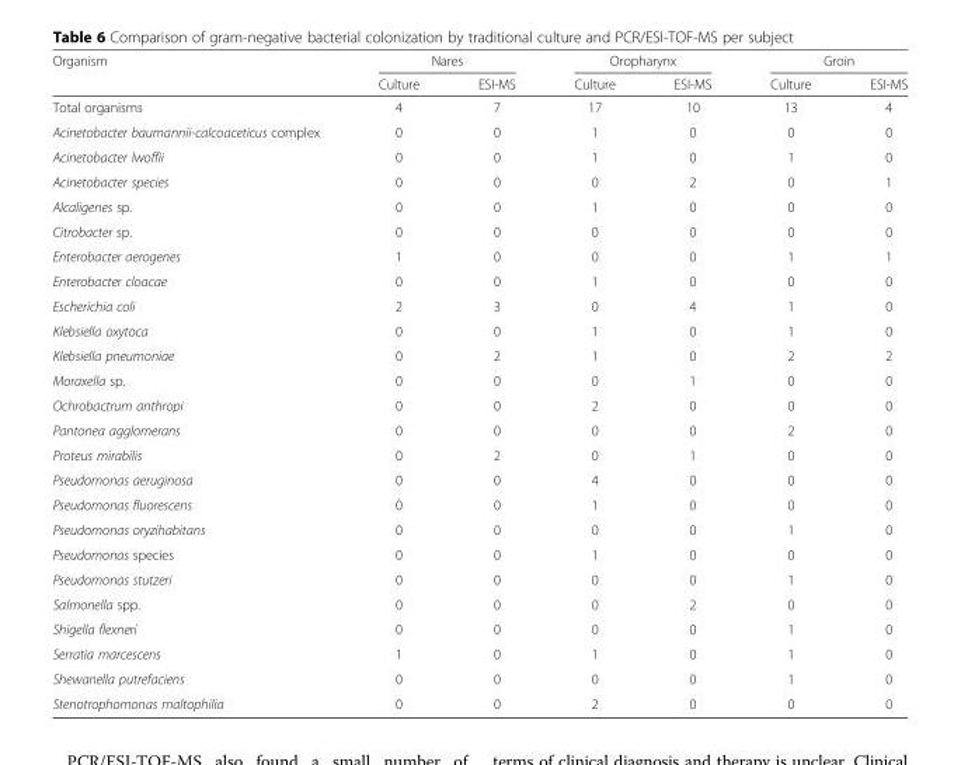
<table><thead><tr><td rowspan="2">Organism</td><td colspan="2">Nares</td><td colspan="2">Oropharynx</td><td colspan="2">Groin</td></tr><tr><td>Culture</td><td>ESI-MS</td><td>Culture</td><td>ESI-MS</td><td>Culture</td><td>ESI-MS</td></tr></thead><tbody><tr><td>Total organisms</td><td>4</td><td>7</td><td>17</td><td>10</td><td>13</td><td>4</td></tr><tr><td>Acinetobacter baumannii-calcoaceticus complex</td><td>0</td><td>0</td><td>1</td><td>0</td><td>0</td><td>0</td></tr><tr><td>Acinetobacter lwoffii</td><td>0</td><td>0</td><td>1</td><td>0</td><td>1</td><td>0</td></tr><tr><td>Acinetobacter species</td><td>0</td><td>0</td><td>0</td><td>2</td><td>0</td><td>1</td></tr><tr><td>Alcaligenes sp.</td><td>0</td><td>0</td><td>1</td><td>0</td><td>0</td><td>0</td></tr><tr><td>Citrobacter sp.</td><td>0</td><td>0</td><td>0</td><td>0</td><td>0</td><td>0</td></tr><tr><td>Enterobacter aerogenes</td><td>1</td><td>0</td><td>0</td><td>0</td><td>1</td><td>1</td></tr><tr><td>Enterobacter cloacae</td><td>0</td><td>0</td><td>1</td><td>0</td><td>0</td><td>0</td></tr><tr><td>Escherichia coli</td><td>2</td><td>3</td><td>0</td><td>4</td><td>1</td><td>0</td></tr><tr><td>Klebsiella oxytoca</td><td>0</td><td>0</td><td>1</td><td>0</td><td>1</td><td>0</td></tr><tr><td>Klebsiella pneumoniae</td><td>0</td><td>2</td><td>1</td><td>0</td><td>2</td><td>2</td></tr><tr><td>Moraxella sp.</td><td>0</td><td>0</td><td>0</td><td>1</td><td>0</td><td>0</td></tr><tr><td>Ochrobactrum anthropi</td><td>0</td><td>0</td><td>2</td><td>0</td><td>0</td><td>0</td></tr><tr><td>Pantonea agglomerans</td><td>0</td><td>0</td><td>0</td><td>0</td><td>2</td><td>0</td></tr><tr><td>Proteus mirabilis</td><td>0</td><td>2</td><td>0</td><td>1</td><td>0</td><td>0</td></tr><tr><td>Pseudomonas aeruginosa</td><td>0</td><td>0</td><td>4</td><td>0</td><td>0</td><td>0</td></tr><tr><td>Pseudomonas fluorescens</td><td>0</td><td>0</td><td>1</td><td>0</td><td>0</td><td>0</td></tr><tr><td>Pseudomonas oryzihabitans</td><td>0</td><td>0</td><td>0</td><td>0</td><td>1</td><td>0</td></tr><tr><td>Pseudomonas species</td><td>0</td><td>0</td><td>1</td><td>0</td><td>0</td><td>0</td></tr><tr><td>Pseudomonas stutzeri</td><td>0</td><td>0</td><td>0</td><td>0</td><td>1</td><td>0</td></tr><tr><td>Salmonella spp.</td><td>0</td><td>0</td><td>0</td><td>2</td><td>0</td><td>0</td></tr><tr><td>Shigella flexneri</td><td>0</td><td>0</td><td>0</td><td>0</td><td>1</td><td>0</td></tr><tr><td>Serratia marcescens</td><td>1</td><td>0</td><td>1</td><td>0</td><td>1</td><td>0</td></tr><tr><td>Shewanella putrefaciens</td><td>0</td><td>0</td><td>0</td><td>0</td><td>1</td><td>0</td></tr><tr><td>Stenotrophomonas maltophilia</td><td>0</td><td>0</td><td>2</td><td>0</td><td>0</td><td>0</td></tr></tbody></table>